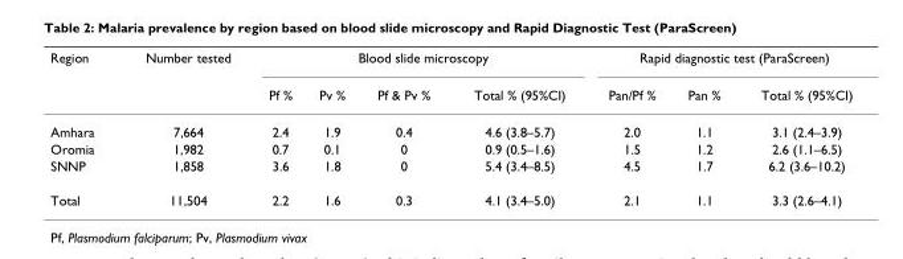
<table><thead><tr><td rowspan="2">Region</td><td rowspan="2">Number tested</td><td colspan="4">Blood slide microscopy</td><td colspan="3">Rapid diagnostic test (ParaScreen)</td></tr><tr><td>Pf %</td><td>Pv %</td><td>Pf &amp; Pv %</td><td>Total % (95%CI)</td><td>Pan/Pf %</td><td>Pan %</td><td>Total % (95%CI)</td></tr></thead><tbody><tr><td>Amhara</td><td>7,664</td><td>2.4</td><td>1.9</td><td>0.4</td><td>4.6 (3.8–5.7)</td><td>2.0</td><td>1.1</td><td>3.1 (2.4–3.9)</td></tr><tr><td>Oromia</td><td>1,982</td><td>0.7</td><td>0.1</td><td>0</td><td>0.9 (0.5–1.6)</td><td>1.5</td><td>1.2</td><td>2.6 (1.1–6.5)</td></tr><tr><td>SNNP</td><td>1,858</td><td>3.6</td><td>1.8</td><td>0</td><td>5.4 (3.4–8.5)</td><td>4.5</td><td>1.7</td><td>6.2 (3.6–10.2)</td></tr><tr><td>Total</td><td>11,504</td><td>2.2</td><td>1.6</td><td>0.3</td><td>4.1 (3.4–5.0)</td><td>2.1</td><td>1.1</td><td>3.3 (2.6–4.1)</td></tr></tbody></table>